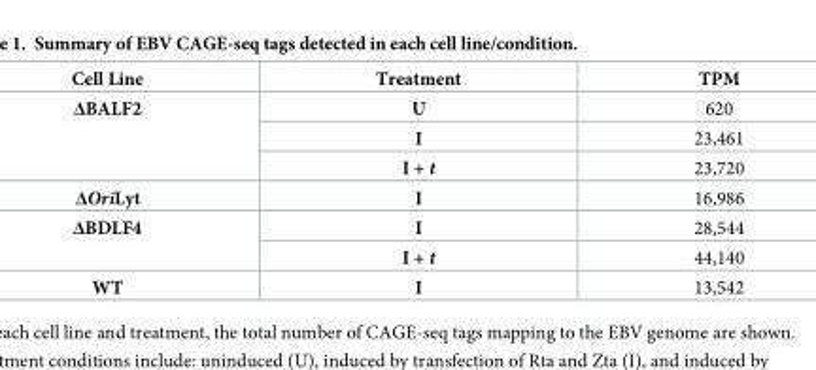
<table><thead><tr><td>Cell Line</td><td>Treatment</td><td>TPM</td></tr></thead><tbody><tr><td rowspan="3">ΔBALF2</td><td>U</td><td>620</td></tr><tr><td>I</td><td>23,461</td></tr><tr><td>I + t</td><td>23,720</td></tr><tr><td>ΔOriLyt</td><td>I</td><td>16,986</td></tr><tr><td rowspan="2">ΔBDLF4</td><td>I</td><td>28,544</td></tr><tr><td>I + t</td><td>44,140</td></tr><tr><td>WT</td><td>I</td><td>13,542</td></tr></tbody></table>